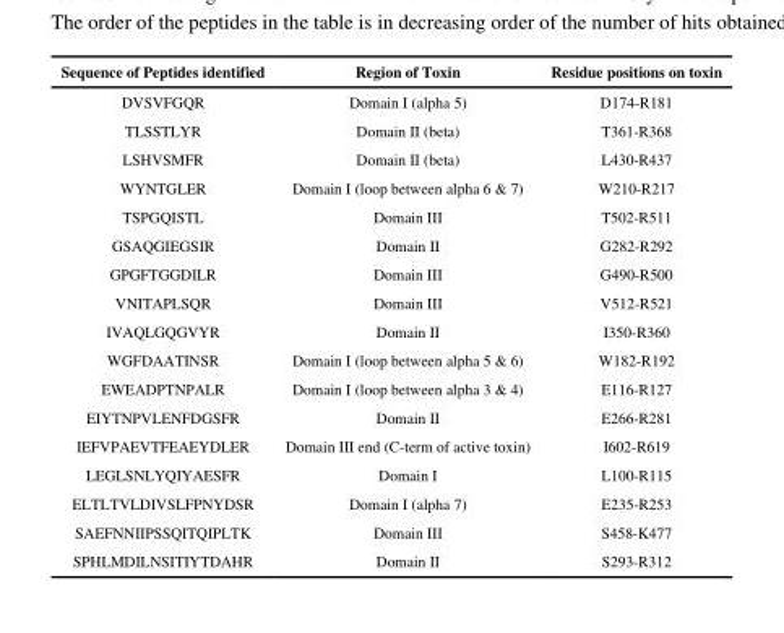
<table><thead><tr><td>Sequence of Peptides identified</td><td>Region of Toxin</td><td>Residue positions on toxin</td></tr></thead><tbody><tr><td>DVSVFGQR</td><td>Domain I (alpha 5)</td><td>D174-R181</td></tr><tr><td>TLSSTLYR</td><td>Domain II (beta)</td><td>T361-R368</td></tr><tr><td>LSHVSMFR</td><td>Domain II (beta)</td><td>L430-R437</td></tr><tr><td>WYNTGLER</td><td>Domain I (loop between alpha 6 &amp; 7)</td><td>W210-R217</td></tr><tr><td>TSPGQISTL</td><td>Domain III</td><td>T502-R511</td></tr><tr><td>GSAQGIEGSIR</td><td>Domain II</td><td>G282-R292</td></tr><tr><td>GPGFTGGDILR</td><td>Domain III</td><td>G490-R500</td></tr><tr><td>VNITAPLSQR</td><td>Domain III</td><td>V512-R521</td></tr><tr><td>IVAQLGQGVYR</td><td>Domain II</td><td>I350-R360</td></tr><tr><td>WGFDAATINSR</td><td>Domain I (loop between alpha 5 &amp; 6)</td><td>W182-R192</td></tr><tr><td>EWEADPTNPALR</td><td>Domain I (loop between alpha 3 &amp; 4)</td><td>E116-R127</td></tr><tr><td>EIYTNPVLENFDGSFR</td><td>Domain II</td><td>E266-R281</td></tr><tr><td>IEFVPAEVTFEAEYDLER</td><td>Domain III end (C-term of active toxin)</td><td>I602-R619</td></tr><tr><td>LEGLSNLYQIYAESFR</td><td>Domain I</td><td>L100-R115</td></tr><tr><td>ELTLTVLDIVSLFPNYDSR</td><td>Domain I (alpha 7)</td><td>E235-R253</td></tr><tr><td>SAEFNNIIPSSQITQIPLTK</td><td>Domain III</td><td>S458-K477</td></tr><tr><td>SPHLMDILNSITIYTDAHR</td><td>Domain II</td><td>S293-R312</td></tr></tbody></table>